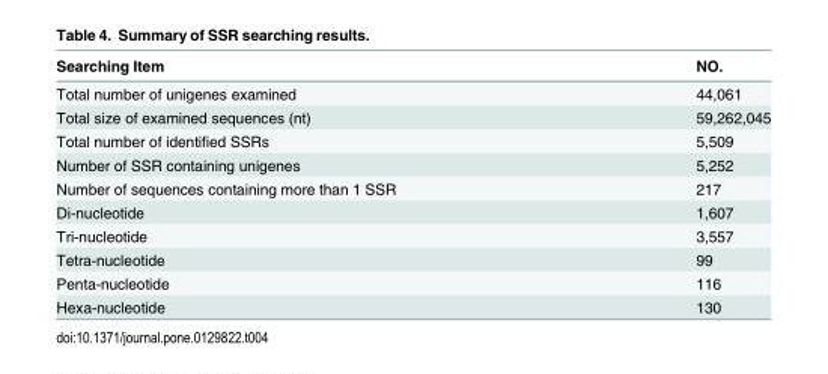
<table><thead><tr><td>Searching Item</td><td>NO.</td></tr></thead><tbody><tr><td>Total number of unigenes examined</td><td>44,061</td></tr><tr><td>Total size of examined sequences (nt)</td><td>59,262,045</td></tr><tr><td>Total number of identified SSRs</td><td>5,509</td></tr><tr><td>Number of SSR containing unigenes</td><td>5,252</td></tr><tr><td>Number of sequences containing more than 1 SSR</td><td>217</td></tr><tr><td>Di-nucleotide</td><td>1,607</td></tr><tr><td>Tri-nucleotide</td><td>3,557</td></tr><tr><td>Tetra-nucleotide</td><td>99</td></tr><tr><td>Penta-nucleotide</td><td>116</td></tr><tr><td>Hexa-nucleotide</td><td>130</td></tr></tbody></table>